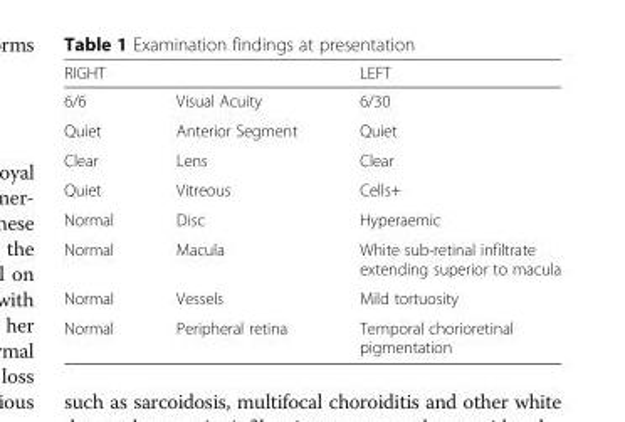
<table><thead><tr><td>RIGHT</td><td></td><td>LEFT</td></tr></thead><tbody><tr><td>6/6</td><td>Visual Acuity</td><td>6/30</td></tr><tr><td>Quiet</td><td>Anterior Segment</td><td>Quiet</td></tr><tr><td>Clear</td><td>Lens</td><td>Clear</td></tr><tr><td>Quiet</td><td>Vitreous</td><td>Cells+</td></tr><tr><td>Normal</td><td>Disc</td><td>Hyperaemic</td></tr><tr><td>Normal</td><td>Macula</td><td>White sub-retinal infiltrate extending superior to macula</td></tr><tr><td>Normal</td><td>Vessels</td><td>Mild tortuosity</td></tr><tr><td>Normal</td><td>Peripheral retina</td><td>Temporal chorioretinal pigmentation</td></tr></tbody></table>